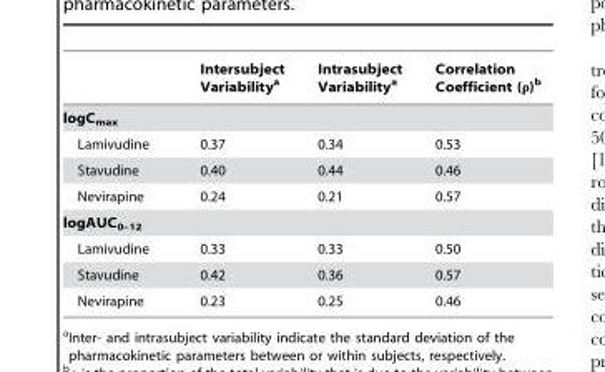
<table><thead><tr><td></td><td>Intersubject Variability<sup>a</sup></td><td>Intrasubject Variability<sup>a</sup></td><td>Correlation Coefficient (ρ)<sup>b</sup></td></tr></thead><tbody><tr><td colspan="4">logC<sub>max</sub></td></tr><tr><td>Lamivudine</td><td>0.37</td><td>0.34</td><td>0.53</td></tr><tr><td>Stavudine</td><td>0.40</td><td>0.44</td><td>0.46</td></tr><tr><td>Nevirapine</td><td>0.24</td><td>0.21</td><td>0.57</td></tr><tr><td colspan="4">logAUC<sub>0–12</sub></td></tr><tr><td>Lamivudine</td><td>0.33</td><td>0.33</td><td>0.50</td></tr><tr><td>Stavudine</td><td>0.42</td><td>0.36</td><td>0.57</td></tr><tr><td>Nevirapine</td><td>0.23</td><td>0.25</td><td>0.46</td></tr></tbody></table>